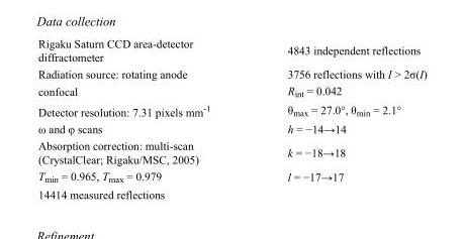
<table><tbody><tr><td>Rigaku Saturn CCD area-detector diffractometer</td><td>4843 independent reflections</td></tr><tr><td>Radiation source: rotating anode</td><td>3756 reflections with I &gt; 2σ(I)</td></tr><tr><td>confocal</td><td>R<sub>int</sub> = 0.042</td></tr><tr><td>Detector resolution: 7.31 pixels mm<sup>-1</sup></td><td>θ<sub>max</sub> = 27.0°, θ<sub>min</sub> = 2.1°</td></tr><tr><td>ω and φ scans</td><td>h = −14→14</td></tr><tr><td>Absorption correction: multi-scan (CrystalClear; Rigaku/MSC, 2005)</td><td>k = −18→18</td></tr><tr><td>T<sub>min</sub> = 0.965, T<sub>max</sub> = 0.979</td><td>l = −17→17</td></tr><tr><td>14414 measured reflections</td><td></td></tr></tbody></table>